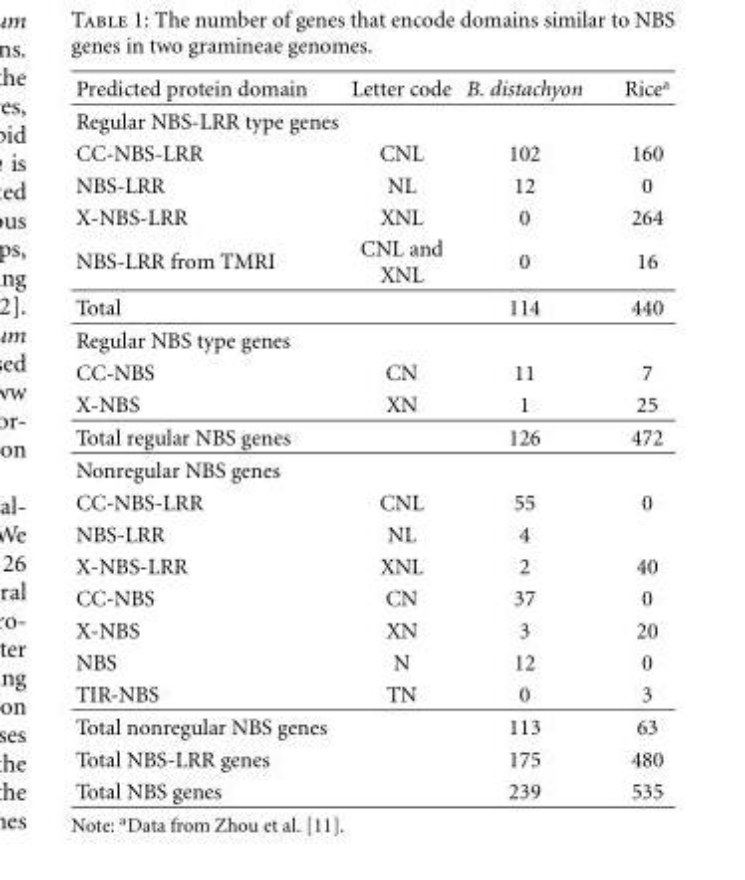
<table><thead><tr><td>Predicted protein domain</td><td>Letter code</td><td>B. distachyon</td><td>Rice<sup>a</sup></td></tr></thead><tbody><tr><td colspan="4">Regular NBS-LRR type genes</td></tr><tr><td>CC-NBS-LRR</td><td>CNL</td><td>102</td><td>160</td></tr><tr><td>NBS-LRR</td><td>NL</td><td>12</td><td>0</td></tr><tr><td>X-NBS-LRR</td><td>XNL</td><td>0</td><td>264</td></tr><tr><td>NBS-LRR from TMRI</td><td>CNL and XNL</td><td>0</td><td>16</td></tr><tr><td>Total</td><td></td><td>114</td><td>440</td></tr><tr><td colspan="4">Regular NBS type genes</td></tr><tr><td>CC-NBS</td><td>CN</td><td>11</td><td>7</td></tr><tr><td>X-NBS</td><td>XN</td><td>1</td><td>25</td></tr><tr><td>Total regular NBS genes</td><td></td><td>126</td><td>472</td></tr><tr><td colspan="4">Nonregular NBS genes</td></tr><tr><td>CC-NBS-LRR</td><td>CNL</td><td>55</td><td>0</td></tr><tr><td>NBS-LRR</td><td>NL</td><td>4</td><td></td></tr><tr><td>X-NBS-LRR</td><td>XNL</td><td>2</td><td>40</td></tr><tr><td>CC-NBS</td><td>CN</td><td>37</td><td>0</td></tr><tr><td>X-NBS</td><td>XN</td><td>3</td><td>20</td></tr><tr><td>NBS</td><td>N</td><td>12</td><td>0</td></tr><tr><td>TIR-NBS</td><td>TN</td><td>0</td><td>3</td></tr><tr><td>Total nonregular NBS genes</td><td></td><td>113</td><td>63</td></tr><tr><td>Total NBS-LRR genes</td><td></td><td>175</td><td>480</td></tr><tr><td>Total NBS genes</td><td></td><td>239</td><td>535</td></tr></tbody></table>